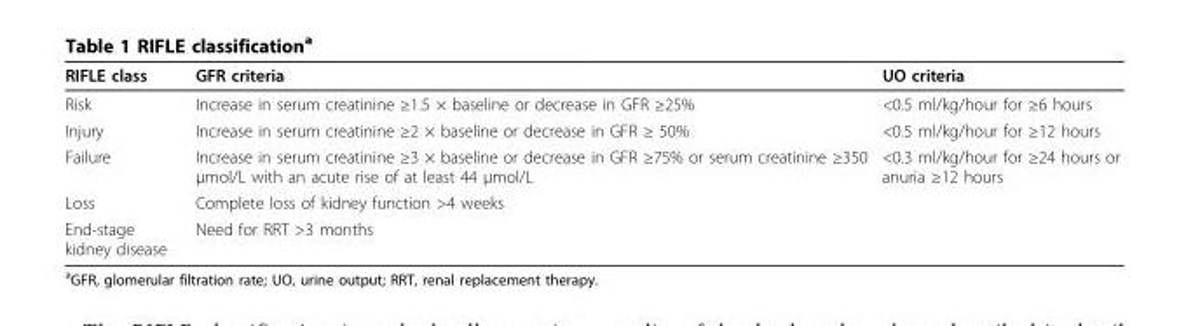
<table><thead><tr><td>RIFLE class</td><td>GFR criteria</td><td>UO criteria</td></tr></thead><tbody><tr><td>Risk</td><td>Increase in serum creatinine ≥1.5 × baseline or decrease in GFR ≥25%</td><td>&lt;0.5 ml/kg/hour for ≥6 hours</td></tr><tr><td>Injury</td><td>Increase in serum creatinine ≥2 × baseline or decrease in GFR ≥ 50%</td><td>&lt;0.5 ml/kg/hour for ≥12 hours</td></tr><tr><td>Failure</td><td>Increase in serum creatinine ≥3 × baseline or decrease in GFR ≥75% or serum creatinine ≥350 μmol/L with an acute rise of at least 44 μmol/L</td><td>&lt;0.3 ml/kg/hour for ≥24 hours or anuria ≥12 hours</td></tr><tr><td>Loss</td><td colspan="2">Complete loss of kidney function &gt;4 weeks</td></tr><tr><td>End-stage kidney disease</td><td colspan="2">Need for RRT &gt;3 months</td></tr></tbody></table>